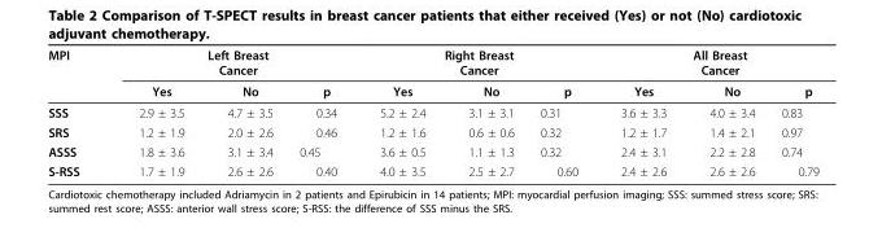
<table><thead><tr><td rowspan="2">MPI</td><td colspan="3">Left Breast Cancer</td><td colspan="3">Right Breast Cancer</td><td colspan="3">All Breast Cancer</td></tr><tr><td>Yes</td><td>No</td><td>p</td><td>Yes</td><td>No</td><td>p</td><td>Yes</td><td>No</td><td>p</td></tr></thead><tbody><tr><td>SSS</td><td>2.9 ± 3.5</td><td>4.7 ± 3.5</td><td>0.34</td><td>5.2 ± 2.4</td><td>3.1 ± 3.1</td><td>0.31</td><td>3.6 ± 3.3</td><td>4.0 ± 3.4</td><td>0.83</td></tr><tr><td>SRS</td><td>1.2 ± 1.9</td><td>2.0 ± 2.6</td><td>0.46</td><td>1.2 ± 1.6</td><td>0.6 ± 0.6</td><td>0.32</td><td>1.2 ± 1.7</td><td>1.4 ± 2.1</td><td>0.97</td></tr><tr><td>ASSS</td><td>1.8 ± 3.6</td><td>3.1 ± 3.4</td><td>0.45</td><td>3.6 ± 0.5</td><td>1.1 ± 1.3</td><td>0.32</td><td>2.4 ± 3.1</td><td>2.2 ± 2.8</td><td>0.74</td></tr><tr><td>S-RSS</td><td>1.7 ± 1.9</td><td>2.6 ± 2.6</td><td>0.40</td><td>4.0 ± 3.5</td><td>2.5 ± 2.7</td><td>0.60</td><td>2.4 ± 2.6</td><td>2.6 ± 2.6</td><td>0.79</td></tr></tbody></table>